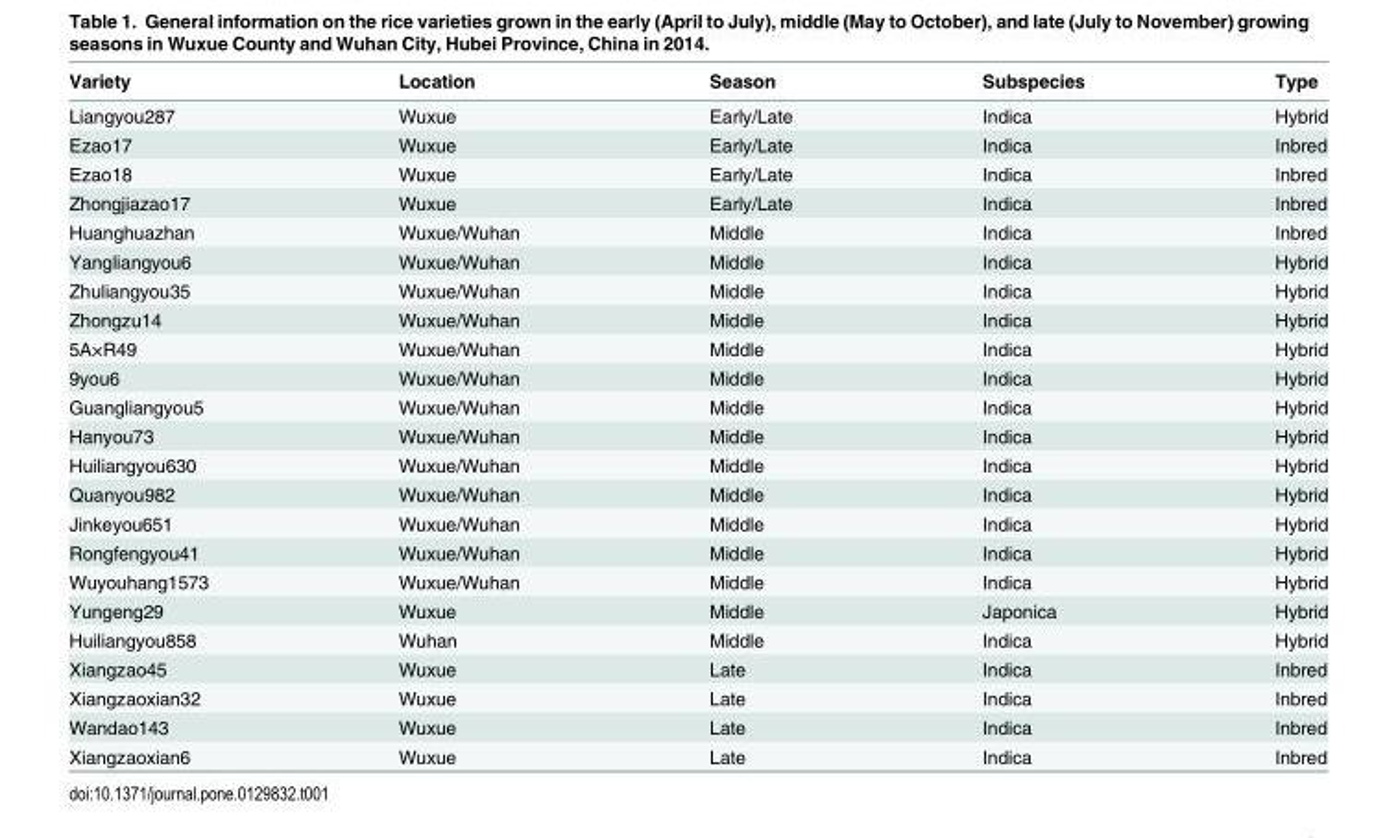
<table><thead><tr><td>Variety</td><td>Location</td><td>Season</td><td>Subspecies</td><td>Type</td></tr></thead><tbody><tr><td>Liangyou287</td><td>Wuxue</td><td>Early/Late</td><td>Indica</td><td>Hybrid</td></tr><tr><td>Ezao17</td><td>Wuxue</td><td>Early/Late</td><td>Indica</td><td>Inbred</td></tr><tr><td>Ezao18</td><td>Wuxue</td><td>Early/Late</td><td>Indica</td><td>Inbred</td></tr><tr><td>Zhongjiazao17</td><td>Wuxue</td><td>Early/Late</td><td>Indica</td><td>Inbred</td></tr><tr><td>Huanghuazhan</td><td>Wuxue/Wuhan</td><td>Middle</td><td>Indica</td><td>Inbred</td></tr><tr><td>Yangliangyou6</td><td>Wuxue/Wuhan</td><td>Middle</td><td>Indica</td><td>Hybrid</td></tr><tr><td>Zhuliangyou35</td><td>Wuxue/Wuhan</td><td>Middle</td><td>Indica</td><td>Hybrid</td></tr><tr><td>Zhongzu14</td><td>Wuxue/Wuhan</td><td>Middle</td><td>Indica</td><td>Hybrid</td></tr><tr><td>5A×R49</td><td>Wuxue/Wuhan</td><td>Middle</td><td>Indica</td><td>Hybrid</td></tr><tr><td>9you6</td><td>Wuxue/Wuhan</td><td>Middle</td><td>Indica</td><td>Hybrid</td></tr><tr><td>Guangliangyou5</td><td>Wuxue/Wuhan</td><td>Middle</td><td>Indica</td><td>Hybrid</td></tr><tr><td>Hanyou73</td><td>Wuxue/Wuhan</td><td>Middle</td><td>Indica</td><td>Hybrid</td></tr><tr><td>Huiliangyou630</td><td>Wuxue/Wuhan</td><td>Middle</td><td>Indica</td><td>Hybrid</td></tr><tr><td>Quanyou982</td><td>Wuxue/Wuhan</td><td>Middle</td><td>Indica</td><td>Hybrid</td></tr><tr><td>Jinkeyou651</td><td>Wuxue/Wuhan</td><td>Middle</td><td>Indica</td><td>Hybrid</td></tr><tr><td>Rongfengyou41</td><td>Wuxue/Wuhan</td><td>Middle</td><td>Indica</td><td>Hybrid</td></tr><tr><td>Wuyouhang1573</td><td>Wuxue/Wuhan</td><td>Middle</td><td>Indica</td><td>Hybrid</td></tr><tr><td>Yungeng29</td><td>Wuxue</td><td>Middle</td><td>Japonica</td><td>Hybrid</td></tr><tr><td>Huiliangyou858</td><td>Wuhan</td><td>Middle</td><td>Indica</td><td>Hybrid</td></tr><tr><td>Xiangzao45</td><td>Wuxue</td><td>Late</td><td>Indica</td><td>Inbred</td></tr><tr><td>Xiangzaoxian32</td><td>Wuxue</td><td>Late</td><td>Indica</td><td>Inbred</td></tr><tr><td>Wandao143</td><td>Wuxue</td><td>Late</td><td>Indica</td><td>Inbred</td></tr><tr><td>Xiangzaoxian6</td><td>Wuxue</td><td>Late</td><td>Indica</td><td>Inbred</td></tr></tbody></table>